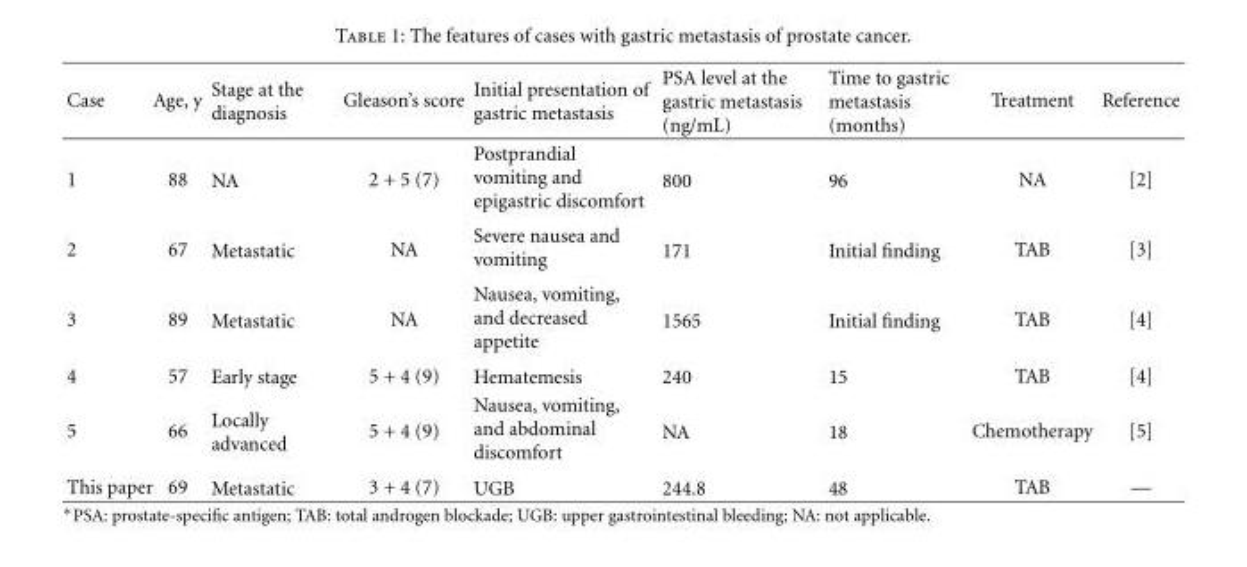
<table><thead><tr><td>Case</td><td>Age, y</td><td>Stage at the diagnosis</td><td>Gleason’s score</td><td>Initial presentation of gastric metastasis</td><td>PSA level at the gastric metastasis (ng/mL)</td><td>Time to gastric metastasis (months)</td><td>Treatment</td><td>Reference</td></tr></thead><tbody><tr><td>1</td><td>88</td><td>NA</td><td>2 + 5 (7)</td><td>Postprandial vomiting and epigastric discomfort</td><td>800</td><td>96</td><td>NA</td><td>[2]</td></tr><tr><td>2</td><td>67</td><td>Metastatic</td><td>NA</td><td>Severe nausea and vomiting</td><td>171</td><td>Initial finding</td><td>TAB</td><td>[3]</td></tr><tr><td>3</td><td>89</td><td>Metastatic</td><td>NA</td><td>Nausea, vomiting, and decreased appetite</td><td>1565</td><td>Initial finding</td><td>TAB</td><td>[4]</td></tr><tr><td>4</td><td>57</td><td>Early stage</td><td>5 + 4 (9)</td><td>Hematemesis</td><td>240</td><td>15</td><td>TAB</td><td>[4]</td></tr><tr><td>5</td><td>66</td><td>Locally advanced</td><td>5 + 4 (9)</td><td>Nausea, vomiting, and abdominal discomfort</td><td>NA</td><td>18</td><td>Chemotherapy</td><td>[5]</td></tr><tr><td>This paper</td><td>69</td><td>Metastatic</td><td>3 + 4 (7)</td><td>UGB</td><td>244.8</td><td>48</td><td>TAB</td><td>—</td></tr></tbody></table>